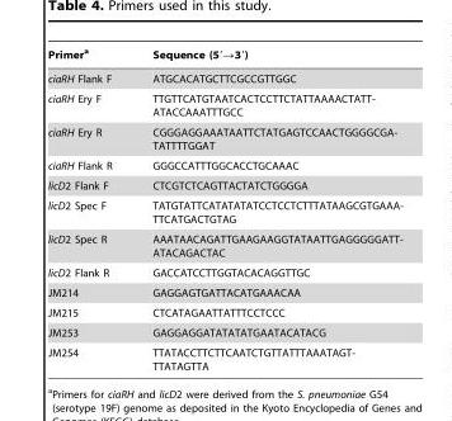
<table><thead><tr><td>Primer<sup>a</sup></td><td>Sequence (5′→3′)</td></tr></thead><tbody><tr><td>ciaRH Flank F</td><td>ATGCACATGCTTCGCCGTTGGC</td></tr><tr><td>ciaRH Ery F</td><td>TTGTTCATGTAATCACTCCTTCTATTAAAACTATT- ATACCAAATTTGCC</td></tr><tr><td>ciaRH Ery R</td><td>CGGGAGGAAATAATTCTATGAGTCCAACTGGGGCGA- TATTTTGGAT</td></tr><tr><td>ciaRH Flank R</td><td>GGGCCATTTGGCACCTGCAAAC</td></tr><tr><td>licD2 Flank F</td><td>CTCGTCTCAGTTACTATCTGGGGA</td></tr><tr><td>licD2 Spec F</td><td>TATGTATTCATATATATCCTCCTCTTTATAAGCGTGAAA- TTCATGACTGTAG</td></tr><tr><td>licD2 Spec R</td><td>AAATAACAGATTGAAGAAGGTATAATTGAGGGGGATT- ATACAGACTAC</td></tr><tr><td>licD2 Flank R</td><td>GACCATCCTTGGTACACAGGTTGC</td></tr><tr><td>JM214</td><td>GAGGAGTGATTACATGAAACAA</td></tr><tr><td>JM215</td><td>CTCATAGAATTATTTCCTCCC</td></tr><tr><td>JM253</td><td>GAGGAGGATATATATGAATACATACG</td></tr><tr><td>JM254</td><td>TTATACCTTCTTCAATCTGTTATTTAAATAGT- TTATAGTTA</td></tr></tbody></table>